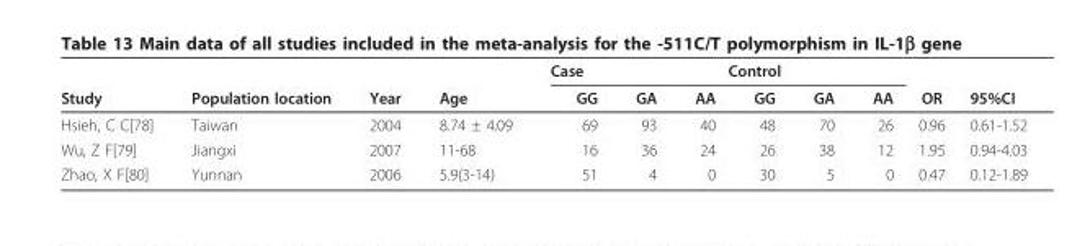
<table><thead><tr><td rowspan="2">Study</td><td rowspan="2">Population location</td><td rowspan="2">Year</td><td rowspan="2">Age</td><td colspan="3">Case</td><td colspan="3">Control</td><td rowspan="2">OR</td><td rowspan="2">95%CI</td></tr><tr><td>GG</td><td>GA</td><td>AA</td><td>GG</td><td>GA</td><td>AA</td></tr></thead><tbody><tr><td>Hsieh, C C[78]</td><td>Taiwan</td><td>2004</td><td>8.74 ± 4.09</td><td>69</td><td>93</td><td>40</td><td>48</td><td>70</td><td>26</td><td>0.96</td><td>0.61-1.52</td></tr><tr><td>Wu, Z F[79]</td><td>Jiangxi</td><td>2007</td><td>11-68</td><td>16</td><td>36</td><td>24</td><td>26</td><td>38</td><td>12</td><td>1.95</td><td>0.94-4.03</td></tr><tr><td>Zhao, X F[80]</td><td>Yunnan</td><td>2006</td><td>5.9(3-14)</td><td>51</td><td>4</td><td>0</td><td>30</td><td>5</td><td>0</td><td>0.47</td><td>0.12-1.89</td></tr></tbody></table>